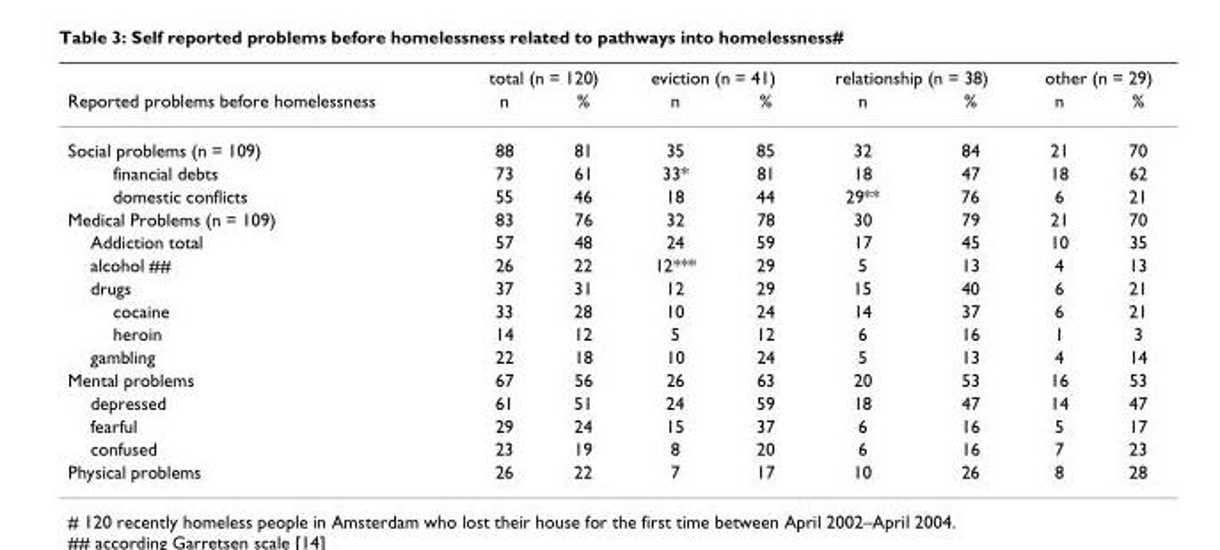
<table><thead><tr><td rowspan="2">Reported problems before homelessness</td><td colspan="2">total (n = 120)</td><td colspan="2">eviction (n = 41)</td><td colspan="2">relationship (n = 38)</td><td colspan="2">other (n = 29)</td></tr><tr><td>n</td><td>%</td><td>n</td><td>%</td><td>n</td><td>%</td><td>n</td><td>%</td></tr></thead><tbody><tr><td>Social problems (n = 109)</td><td>88</td><td>81</td><td>35</td><td>85</td><td>32</td><td>84</td><td>21</td><td>70</td></tr><tr><td>financial debts</td><td>73</td><td>61</td><td>33*</td><td>81</td><td>18</td><td>47</td><td>18</td><td>62</td></tr><tr><td>domestic conflicts</td><td>55</td><td>46</td><td>18</td><td>44</td><td>29**</td><td>76</td><td>6</td><td>21</td></tr><tr><td>Medical Problems (n = 109)</td><td>83</td><td>76</td><td>32</td><td>78</td><td>30</td><td>79</td><td>21</td><td>70</td></tr><tr><td>Addiction total</td><td>57</td><td>48</td><td>24</td><td>59</td><td>17</td><td>45</td><td>10</td><td>35</td></tr><tr><td>alcohol ##</td><td>26</td><td>22</td><td>12***</td><td>29</td><td>5</td><td>13</td><td>4</td><td>13</td></tr><tr><td>drugs</td><td>37</td><td>31</td><td>12</td><td>29</td><td>15</td><td>40</td><td>6</td><td>21</td></tr><tr><td>cocaine</td><td>33</td><td>28</td><td>10</td><td>24</td><td>14</td><td>37</td><td>6</td><td>21</td></tr><tr><td>heroin</td><td>14</td><td>12</td><td>5</td><td>12</td><td>6</td><td>16</td><td>1</td><td>3</td></tr><tr><td>gambling</td><td>22</td><td>18</td><td>10</td><td>24</td><td>5</td><td>13</td><td>4</td><td>14</td></tr><tr><td>Mental problems</td><td>67</td><td>56</td><td>26</td><td>63</td><td>20</td><td>53</td><td>16</td><td>53</td></tr><tr><td>depressed</td><td>61</td><td>51</td><td>24</td><td>59</td><td>18</td><td>47</td><td>14</td><td>47</td></tr><tr><td>fearful</td><td>29</td><td>24</td><td>15</td><td>37</td><td>6</td><td>16</td><td>5</td><td>17</td></tr><tr><td>confused</td><td>23</td><td>19</td><td>8</td><td>20</td><td>6</td><td>16</td><td>7</td><td>23</td></tr><tr><td>Physical problems</td><td>26</td><td>22</td><td>7</td><td>17</td><td>10</td><td>26</td><td>8</td><td>28</td></tr></tbody></table>